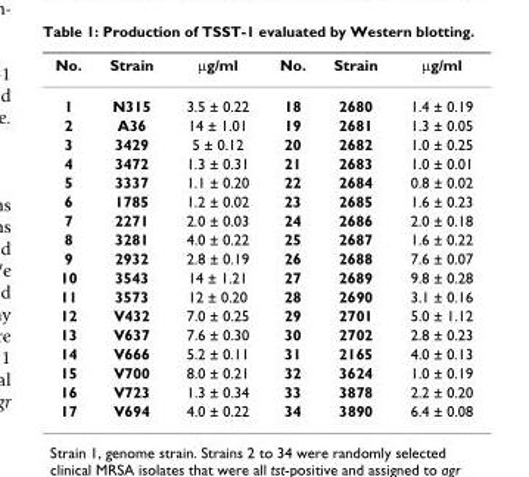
<table><thead><tr><td>No.</td><td>Strain</td><td>μg/ml</td><td>No.</td><td>Strain</td><td>μg/ml</td></tr></thead><tbody><tr><td>1</td><td>N315</td><td>3.5 ± 0.22</td><td>18</td><td>2680</td><td>1.4 ± 0.19</td></tr><tr><td>2</td><td>A36</td><td>14 ± 1.01</td><td>19</td><td>2681</td><td>1.3 ± 0.05</td></tr><tr><td>3</td><td>3429</td><td>5 ± 0.12</td><td>20</td><td>2682</td><td>1.0 ± 0.25</td></tr><tr><td>4</td><td>3472</td><td>1.3 ± 0.31</td><td>21</td><td>2683</td><td>1.0 ± 0.01</td></tr><tr><td>5</td><td>3337</td><td>1.1 ± 0.20</td><td>22</td><td>2684</td><td>0.8 ± 0.02</td></tr><tr><td>6</td><td>1785</td><td>1.2 ± 0.02</td><td>23</td><td>2685</td><td>1.6 ± 0.23</td></tr><tr><td>7</td><td>2271</td><td>2.0 ± 0.03</td><td>24</td><td>2686</td><td>2.0 ± 0.18</td></tr><tr><td>8</td><td>3281</td><td>4.0 ± 0.22</td><td>25</td><td>2687</td><td>1.6 ± 0.22</td></tr><tr><td>9</td><td>2932</td><td>2.8 ± 0.19</td><td>26</td><td>2688</td><td>7.6 ± 0.07</td></tr><tr><td>10</td><td>3543</td><td>14 ± 1.21</td><td>27</td><td>2689</td><td>9.8 ± 0.28</td></tr><tr><td>11</td><td>3573</td><td>12 ± 0.20</td><td>28</td><td>2690</td><td>3.1 ± 0.16</td></tr><tr><td>12</td><td>V432</td><td>7.0 ± 0.25</td><td>29</td><td>2701</td><td>5.0 ± 1.12</td></tr><tr><td>13</td><td>V637</td><td>7.6 ± 0.30</td><td>30</td><td>2702</td><td>2.8 ± 0.23</td></tr><tr><td>14</td><td>V666</td><td>5.2 ± 0.11</td><td>31</td><td>2165</td><td>4.0 ± 0.13</td></tr><tr><td>15</td><td>V700</td><td>8.0 ± 0.21</td><td>32</td><td>3624</td><td>1.0 ± 0.19</td></tr><tr><td>16</td><td>V723</td><td>1.3 ± 0.34</td><td>33</td><td>3878</td><td>2.2 ± 0.20</td></tr><tr><td>17</td><td>V694</td><td>4.0 ± 0.22</td><td>34</td><td>3890</td><td>6.4 ± 0.08</td></tr></tbody></table>